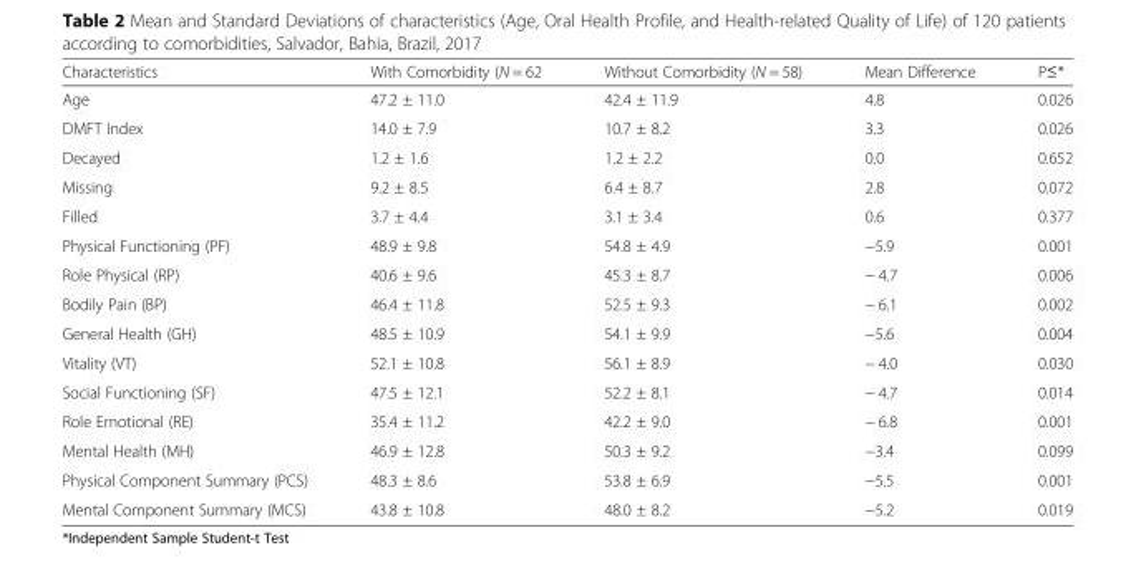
<table><thead><tr><td>Characteristics</td><td>With Comorbidity (N = 62</td><td>Without Comorbidity (N = 58)</td><td>Mean Difference</td><td>P≤*</td></tr></thead><tbody><tr><td>Age</td><td>47.2 ± 11.0</td><td>42.4 ± 11.9</td><td>4.8</td><td>0.026</td></tr><tr><td>DMFT Index</td><td>14.0 ± 7.9</td><td>10.7 ± 8.2</td><td>3.3</td><td>0.026</td></tr><tr><td>Decayed</td><td>1.2 ± 1.6</td><td>1.2 ± 2.2</td><td>0.0</td><td>0.652</td></tr><tr><td>Missing</td><td>9.2 ± 8.5</td><td>6.4 ± 8.7</td><td>2.8</td><td>0.072</td></tr><tr><td>Filled</td><td>3.7 ± 4.4</td><td>3.1 ± 3.4</td><td>0.6</td><td>0.377</td></tr><tr><td>Physical Functioning (PF)</td><td>48.9 ± 9.8</td><td>54.8 ± 4.9</td><td>−5.9</td><td>0.001</td></tr><tr><td>Role Physical (RP)</td><td>40.6 ± 9.6</td><td>45.3 ± 8.7</td><td>− 4.7</td><td>0.006</td></tr><tr><td>Bodily Pain (BP)</td><td>46.4 ± 11.8</td><td>52.5 ± 9.3</td><td>− 6.1</td><td>0.002</td></tr><tr><td>General Health (GH)</td><td>48.5 ± 10.9</td><td>54.1 ± 9.9</td><td>−5.6</td><td>0.004</td></tr><tr><td>Vitality (VT)</td><td>52.1 ± 10.8</td><td>56.1 ± 8.9</td><td>− 4.0</td><td>0.030</td></tr><tr><td>Social Functioning (SF)</td><td>47.5 ± 12.1</td><td>52.2 ± 8.1</td><td>− 4.7</td><td>0.014</td></tr><tr><td>Role Emotional (RE)</td><td>35.4 ± 11.2</td><td>42.2 ± 9.0</td><td>− 6.8</td><td>0.001</td></tr><tr><td>Mental Health (MH)</td><td>46.9 ± 12.8</td><td>50.3 ± 9.2</td><td>−3.4</td><td>0.099</td></tr><tr><td>Physical Component Summary (PCS)</td><td>48.3 ± 8.6</td><td>53.8 ± 6.9</td><td>−5.5</td><td>0.001</td></tr><tr><td>Mental Component Summary (MCS)</td><td>43.8 ± 10.8</td><td>48.0 ± 8.2</td><td>−5.2</td><td>0.019</td></tr></tbody></table>